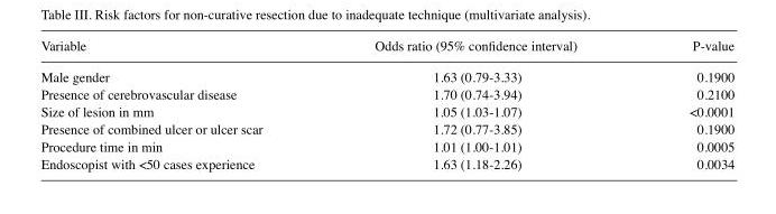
<table><thead><tr><td>Variable</td><td>Odds ratio (95% confidence interval)</td><td>P‑value</td></tr></thead><tbody><tr><td>Male gender</td><td>1.63 (0.79-3.33)</td><td>0.1900</td></tr><tr><td>Presence of cerebrovascular disease</td><td>1.70 (0.74-3.94)</td><td>0.2100</td></tr><tr><td>Size of lesion in mm</td><td>1.05 (1.03-1.07)</td><td>&lt;0.0001</td></tr><tr><td>Presence of combined ulcer or ulcer scar</td><td>1.72 (0.77-3.85)</td><td>0.1900</td></tr><tr><td>Procedure time in min</td><td>1.01 (1.00-1.01)</td><td>0.0005</td></tr><tr><td>Endoscopist with &lt;50 cases experience</td><td>1.63 (1.18-2.26)</td><td>0.0034</td></tr></tbody></table>